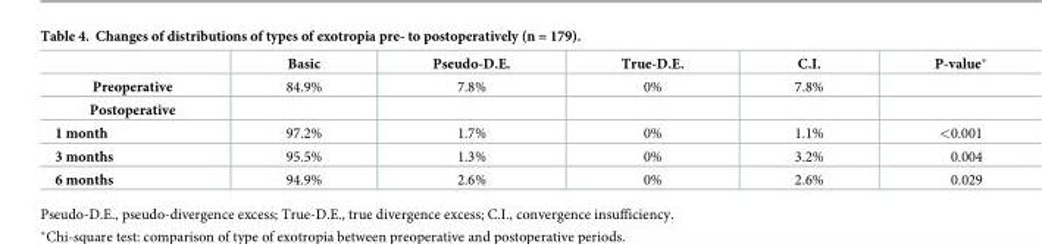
<table><thead><tr><td></td><td>Basic</td><td>Pseudo-D.E.</td><td>True-D.E.</td><td>C.I.</td><td>P-value*</td></tr></thead><tbody><tr><td>Preoperative</td><td>84.9%</td><td>7.8%</td><td>0%</td><td>7.8%</td><td></td></tr><tr><td colspan="6">Postoperative</td></tr><tr><td>1 month</td><td>97.2%</td><td>1.7%</td><td>0%</td><td>1.1%</td><td>&lt;0.001</td></tr><tr><td>3 months</td><td>95.5%</td><td>1.3%</td><td>0%</td><td>3.2%</td><td>0.004</td></tr><tr><td>6 months</td><td>94.9%</td><td>2.6%</td><td>0%</td><td>2.6%</td><td>0.029</td></tr></tbody></table>